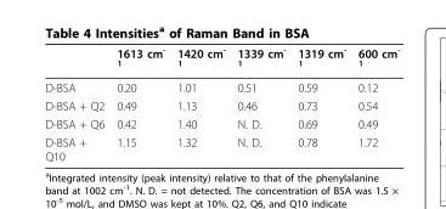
<table><thead><tr><td></td><td>1613 cm<sup>- 1</sup></td><td>1420 cm<sup>- 1</sup></td><td>1339 cm<sup>- 1</sup></td><td>1319 cm<sup>- 1</sup></td><td>600 cm<sup>- 1</sup></td></tr></thead><tbody><tr><td>D-BSA</td><td>0.20</td><td>1.01</td><td>0.51</td><td>0.59</td><td>0.12</td></tr><tr><td>D-BSA + Q2</td><td>0.49</td><td>1.13</td><td>0.46</td><td>0.73</td><td>0.54</td></tr><tr><td>D-BSA + Q6</td><td>0.42</td><td>1.40</td><td>N. D.</td><td>0.69</td><td>0.49</td></tr><tr><td>D-BSA + Q10</td><td>1.15</td><td>1.32</td><td>N. D.</td><td>0.78</td><td>1.72</td></tr></tbody></table>